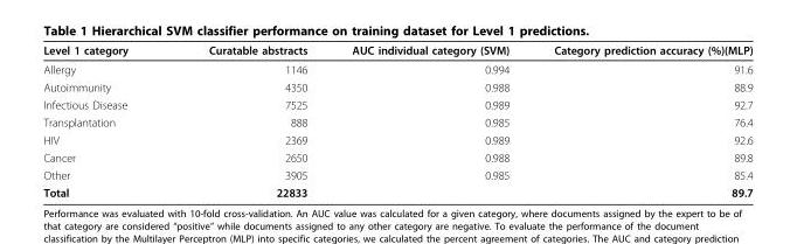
<table><thead><tr><td>Level 1 category</td><td>Curatable abstracts</td><td>AUC individual category (SVM)</td><td>Category prediction accuracy (%)(MLP)</td></tr></thead><tbody><tr><td>Allergy</td><td>1146</td><td>0.994</td><td>91.6</td></tr><tr><td>Autoimmunity</td><td>4350</td><td>0.988</td><td>88.9</td></tr><tr><td>Infectious Disease</td><td>7525</td><td>0.989</td><td>92.7</td></tr><tr><td>Transplantation</td><td>888</td><td>0.985</td><td>76.4</td></tr><tr><td>HIV</td><td>2369</td><td>0.989</td><td>92.6</td></tr><tr><td>Cancer</td><td>2650</td><td>0.988</td><td>89.8</td></tr><tr><td>Other</td><td>3905</td><td>0.985</td><td>85.4</td></tr><tr><td>Total</td><td>22833</td><td></td><td>89.7</td></tr></tbody></table>